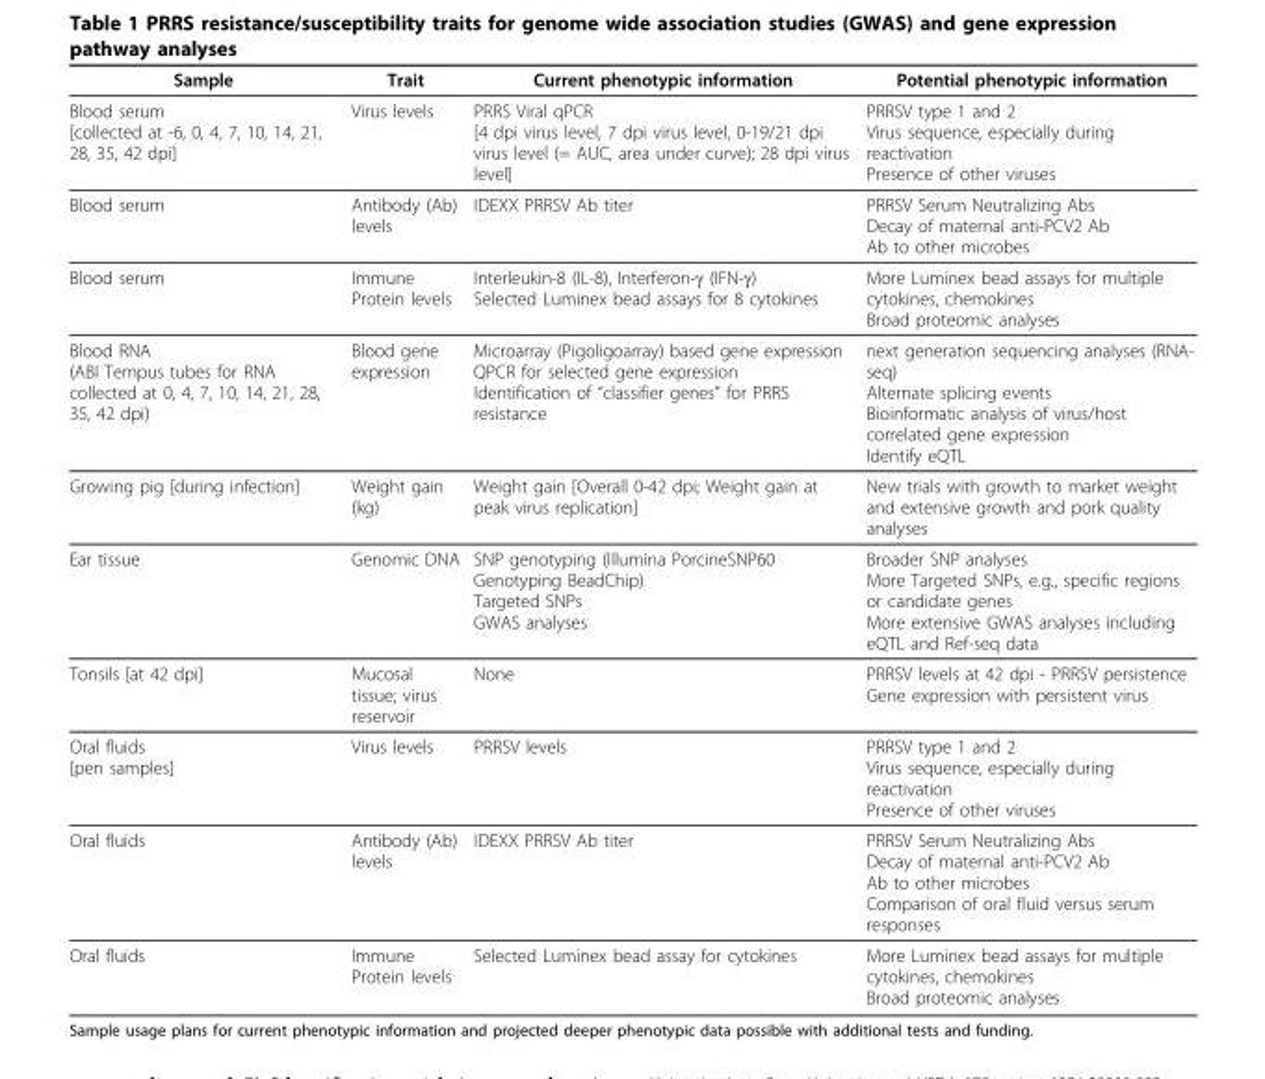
<table><thead><tr><td>Sample</td><td>Trait</td><td>Current phenotypic information</td><td>Potential phenotypic information</td></tr></thead><tbody><tr><td>Blood serum [collected at -6, 0, 4, 7, 10, 14, 21, 28, 35, 42 dpi]</td><td>Virus levels</td><td>PRRS Viral qPCR [4 dpi virus level, 7 dpi virus level, 0-19/21 dpi virus level (= AUC, area under curve); 28 dpi virus level]</td><td>PRRSV type 1 and 2 Virus sequence, especially during reactivation Presence of other viruses</td></tr><tr><td>Blood serum</td><td>Antibody (Ab) levels</td><td>IDEXX PRRSV Ab titer</td><td>PRRSV Serum Neutralizing Abs Decay of maternal anti-PCV2 Ab Ab to other microbes</td></tr><tr><td>Blood serum</td><td>Immune Protein levels</td><td>Interleukin-8 (IL-8), Interferon-γ (IFN-γ) Selected Luminex bead assays for 8 cytokines</td><td>More Luminex bead assays for multiple cytokines, chemokines Broad proteomic analyses</td></tr><tr><td>Blood RNA (ABI Tempus tubes for RNA collected at 0, 4, 7, 10, 14, 21, 28, 35, 42 dpi)</td><td>Blood gene expression</td><td>Microarray (Pigoligoarray) based gene expression QPCR for selected gene expression Identification of “classifier genes” for PRRS resistance</td><td>next generation sequencing analyses (RNA- seq) Alternate splicing events Bioinformatic analysis of virus/host correlated gene expression Identify eQTL</td></tr><tr><td>Growing pig [during infection]</td><td>Weight gain (kg)</td><td>Weight gain [Overall 0-42 dpi; Weight gain at peak virus replication]</td><td>New trials with growth to market weight and extensive growth and pork quality analyses</td></tr><tr><td>Ear tissue</td><td>Genomic DNA</td><td>SNP genotyping (Illumina PorcineSNP60 Genotyping BeadChip) Targeted SNPs GWAS analyses</td><td>Broader SNP analyses More Targeted SNPs, e.g., specific regions or candidate genes More extensive GWAS analyses including eQTL and Ref-seq data</td></tr><tr><td>Tonsils [at 42 dpi]</td><td>Mucosal tissue; virus reservoir</td><td>None</td><td>PRRSV levels at 42 dpi - PRRSV persistence Gene expression with persistent virus</td></tr><tr><td>Oral fluids [pen samples]</td><td>Virus levels</td><td>PRRSV levels</td><td>PRRSV type 1 and 2 Virus sequence, especially during reactivation Presence of other viruses</td></tr><tr><td>Oral fluids</td><td>Antibody (Ab) levels</td><td>IDEXX PRRSV Ab titer</td><td>PRRSV Serum Neutralizing Abs Decay of maternal anti-PCV2 Ab Ab to other microbes Comparison of oral fluid versus serum responses</td></tr><tr><td>Oral fluids</td><td>Immune Protein levels</td><td>Selected Luminex bead assay for cytokines</td><td>More Luminex bead assays for multiple cytokines, chemokines Broad proteomic analyses</td></tr></tbody></table>